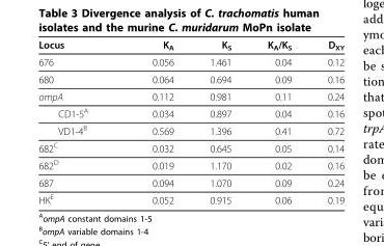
<table><thead><tr><td>Locus</td><td>K<sub>A</sub></td><td>K<sub>S</sub></td><td>K<sub>A</sub>/K<sub>S</sub></td><td>D<sub>XY</sub></td></tr></thead><tbody><tr><td>676</td><td>0.056</td><td>1.461</td><td>0.04</td><td>0.12</td></tr><tr><td>680</td><td>0.064</td><td>0.694</td><td>0.09</td><td>0.16</td></tr><tr><td>ompA</td><td>0.112</td><td>0.981</td><td>0.11</td><td>0.24</td></tr><tr><td>CD1-5<sup>A</sup></td><td>0.034</td><td>0.897</td><td>0.04</td><td>0.16</td></tr><tr><td>VD1-4<sup>B</sup></td><td>0.569</td><td>1.396</td><td>0.41</td><td>0.72</td></tr><tr><td>682<sup>C</sup></td><td>0.032</td><td>0.645</td><td>0.05</td><td>0.14</td></tr><tr><td>682<sup>D</sup></td><td>0.019</td><td>1.170</td><td>0.02</td><td>0.16</td></tr><tr><td>687</td><td>0.094</td><td>1.070</td><td>0.09</td><td>0.24</td></tr><tr><td>HK<sup>E</sup></td><td>0.052</td><td>0.915</td><td>0.06</td><td>0.19</td></tr></tbody></table>